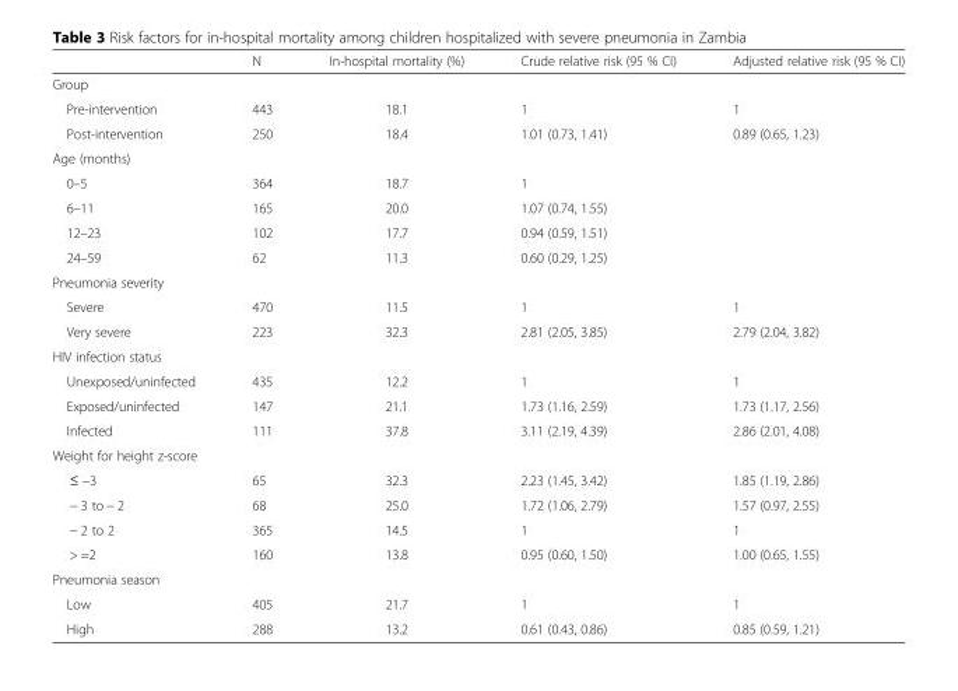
<table><thead><tr><td></td><td>N</td><td>In-hospital mortality (%)</td><td>Crude relative risk (95 % CI)</td><td>Adjusted relative risk (95 % CI)</td></tr></thead><tbody><tr><td colspan="5">Group</td></tr><tr><td>Pre-intervention</td><td>443</td><td>18.1</td><td>1</td><td>1</td></tr><tr><td>Post-intervention</td><td>250</td><td>18.4</td><td>1.01 (0.73, 1.41)</td><td>0.89 (0.65, 1.23)</td></tr><tr><td colspan="5">Age (months)</td></tr><tr><td>0–5</td><td>364</td><td>18.7</td><td>1</td><td></td></tr><tr><td>6–11</td><td>165</td><td>20.0</td><td>1.07 (0.74, 1.55)</td><td></td></tr><tr><td>12–23</td><td>102</td><td>17.7</td><td>0.94 (0.59, 1.51)</td><td></td></tr><tr><td>24–59</td><td>62</td><td>11.3</td><td>0.60 (0.29, 1.25)</td><td></td></tr><tr><td colspan="5">Pneumonia severity</td></tr><tr><td>Severe</td><td>470</td><td>11.5</td><td>1</td><td>1</td></tr><tr><td>Very severe</td><td>223</td><td>32.3</td><td>2.81 (2.05, 3.85)</td><td>2.79 (2.04, 3.82)</td></tr><tr><td colspan="5">HIV infection status</td></tr><tr><td>Unexposed/uninfected</td><td>435</td><td>12.2</td><td>1</td><td>1</td></tr><tr><td>Exposed/uninfected</td><td>147</td><td>21.1</td><td>1.73 (1.16, 2.59)</td><td>1.73 (1.17, 2.56)</td></tr><tr><td>Infected</td><td>111</td><td>37.8</td><td>3.11 (2.19, 4.39)</td><td>2.86 (2.01, 4.08)</td></tr><tr><td colspan="5">Weight for height z-score</td></tr><tr><td>≤ −3</td><td>65</td><td>32.3</td><td>2.23 (1.45, 3.42)</td><td>1.85 (1.19, 2.86)</td></tr><tr><td>− 3 to − 2</td><td>68</td><td>25.0</td><td>1.72 (1.06, 2.79)</td><td>1.57 (0.97, 2.55)</td></tr><tr><td>− 2 to 2</td><td>365</td><td>14.5</td><td>1</td><td>1</td></tr><tr><td>&gt; =2</td><td>160</td><td>13.8</td><td>0.95 (0.60, 1.50)</td><td>1.00 (0.65, 1.55)</td></tr><tr><td colspan="5">Pneumonia season</td></tr><tr><td>Low</td><td>405</td><td>21.7</td><td>1</td><td>1</td></tr><tr><td>High</td><td>288</td><td>13.2</td><td>0.61 (0.43, 0.86)</td><td>0.85 (0.59, 1.21)</td></tr></tbody></table>